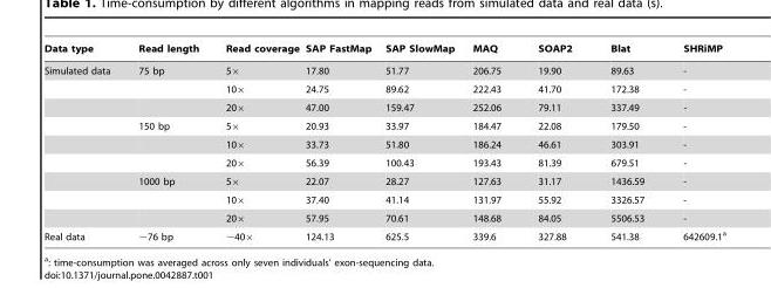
<table><thead><tr><td>Data type</td><td>Read length</td><td>Read coverage</td><td>SAP FastMap</td><td>SAP SlowMap</td><td>MAQ</td><td>SOAP2</td><td>Blat</td><td>SHRiMP</td></tr></thead><tbody><tr><td rowspan="9">Simulated data</td><td>75 bp</td><td>5×</td><td>17.80</td><td>51.77</td><td>206.75</td><td>19.90</td><td>89.63</td><td>-</td></tr><tr><td></td><td>10×</td><td>24.75</td><td>89.62</td><td>222.43</td><td>41.70</td><td>172.38</td><td>-</td></tr><tr><td></td><td>20×</td><td>47.00</td><td>159.47</td><td>252.06</td><td>79.11</td><td>337.49</td><td>-</td></tr><tr><td>150 bp</td><td>5×</td><td>20.93</td><td>33.97</td><td>184.47</td><td>22.08</td><td>179.50</td><td>-</td></tr><tr><td></td><td>10×</td><td>33.73</td><td>51.80</td><td>186.24</td><td>46.61</td><td>303.91</td><td>-</td></tr><tr><td></td><td>20×</td><td>56.39</td><td>100.43</td><td>193.43</td><td>81.39</td><td>679.51</td><td>-</td></tr><tr><td>1000 bp</td><td>5×</td><td>22.07</td><td>28.27</td><td>127.63</td><td>31.17</td><td>1436.59</td><td>-</td></tr><tr><td></td><td>10×</td><td>37.40</td><td>41.14</td><td>131.97</td><td>55.92</td><td>3326.57</td><td>-</td></tr><tr><td></td><td>20×</td><td>57.95</td><td>70.61</td><td>148.68</td><td>84.05</td><td>5506.53</td><td>-</td></tr><tr><td>Real data</td><td>∼76 bp</td><td>∼40×</td><td>124.13</td><td>625.5</td><td>339.6</td><td>327.88</td><td>541.38</td><td>642609.1<sup>a</sup></td></tr></tbody></table>